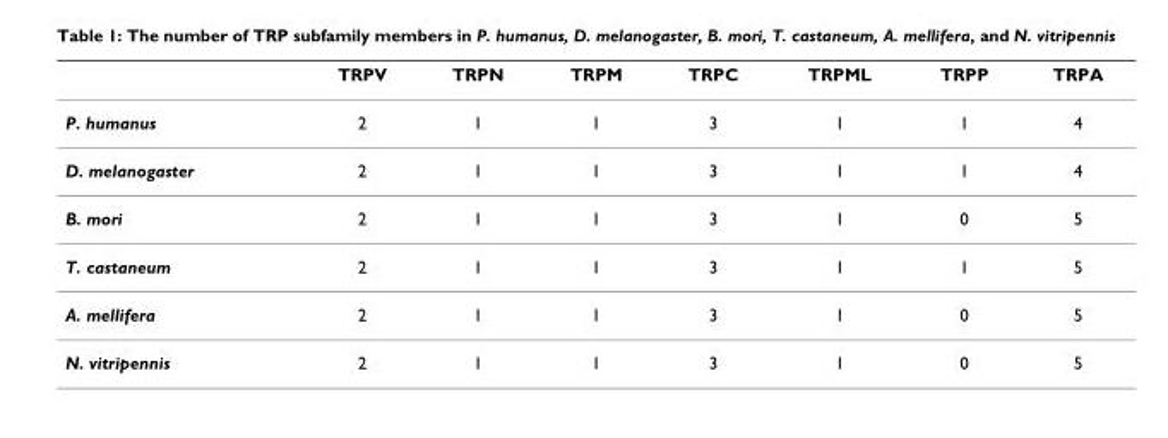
<table><thead><tr><td></td><td>TRPV</td><td>TRPN</td><td>TRPM</td><td>TRPC</td><td>TRPML</td><td>TRPP</td><td>TRPA</td></tr></thead><tbody><tr><td>P. humanus</td><td>2</td><td>1</td><td>1</td><td>3</td><td>1</td><td>1</td><td>4</td></tr><tr><td>D. melanogaster</td><td>2</td><td>1</td><td>1</td><td>3</td><td>1</td><td>1</td><td>4</td></tr><tr><td>B. mori</td><td>2</td><td>1</td><td>1</td><td>3</td><td>1</td><td>0</td><td>5</td></tr><tr><td>T. castaneum</td><td>2</td><td>1</td><td>1</td><td>3</td><td>1</td><td>1</td><td>5</td></tr><tr><td>A. mellifera</td><td>2</td><td>1</td><td>1</td><td>3</td><td>1</td><td>0</td><td>5</td></tr><tr><td>N. vitripennis</td><td>2</td><td>1</td><td>1</td><td>3</td><td>1</td><td>0</td><td>5</td></tr></tbody></table>